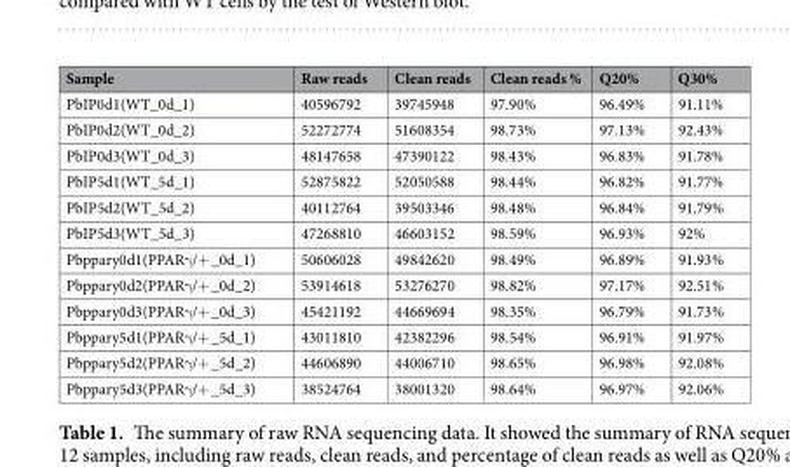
<table><thead><tr><td>Sample</td><td>Raw reads</td><td>Clean reads</td><td>Clean reads %</td><td>Q20%</td><td>Q30%</td></tr></thead><tbody><tr><td>PbIP0d1(WT_0d_1)</td><td>40596792</td><td>39745948</td><td>97.90%</td><td>96.49%</td><td>91.11%</td></tr><tr><td>PbIP0d2(WT_0d_2)</td><td>52272774</td><td>51608354</td><td>98.73%</td><td>97.13%</td><td>92.43%</td></tr><tr><td>PbIP0d3(WT_0d_3)</td><td>48147658</td><td>47390122</td><td>98.43%</td><td>96.83%</td><td>91.78%</td></tr><tr><td>PbIP5d1(WT_5d_1)</td><td>52875822</td><td>52050588</td><td>98.44%</td><td>96.82%</td><td>91.77%</td></tr><tr><td>PbIP5d2(WT_5d_2)</td><td>40112764</td><td>39503346</td><td>98.48%</td><td>96.84%</td><td>91.79%</td></tr><tr><td>PbIP5d3(WT_5d_3)</td><td>47268810</td><td>46603152</td><td>98.59%</td><td>96.93%</td><td>92%</td></tr><tr><td>Pbppary0d1(PPARγ/+ _0d_1)</td><td>50606028</td><td>49842620</td><td>98.49%</td><td>96.89%</td><td>91.93%</td></tr><tr><td>Pbppary0d2(PPARγ/+ _0d_2)</td><td>53914618</td><td>53276270</td><td>98.82%</td><td>97.17%</td><td>92.51%</td></tr><tr><td>Pbppary0d3(PPARγ/+ _0d_3)</td><td>45421192</td><td>44669694</td><td>98.35%</td><td>96.79%</td><td>91.73%</td></tr><tr><td>Pbppary5d1(PPARγ/+ _5d_1)</td><td>43011810</td><td>42382296</td><td>98.54%</td><td>96.91%</td><td>91.97%</td></tr><tr><td>Pbppary5d2(PPARγ/+ _5d_2)</td><td>44606890</td><td>44006710</td><td>98.65%</td><td>96.98%</td><td>92.08%</td></tr><tr><td>Pbppary5d3(PPARγ/+ _5d_3)</td><td>38524764</td><td>38001320</td><td>98.64%</td><td>96.97%</td><td>92.06%</td></tr></tbody></table>